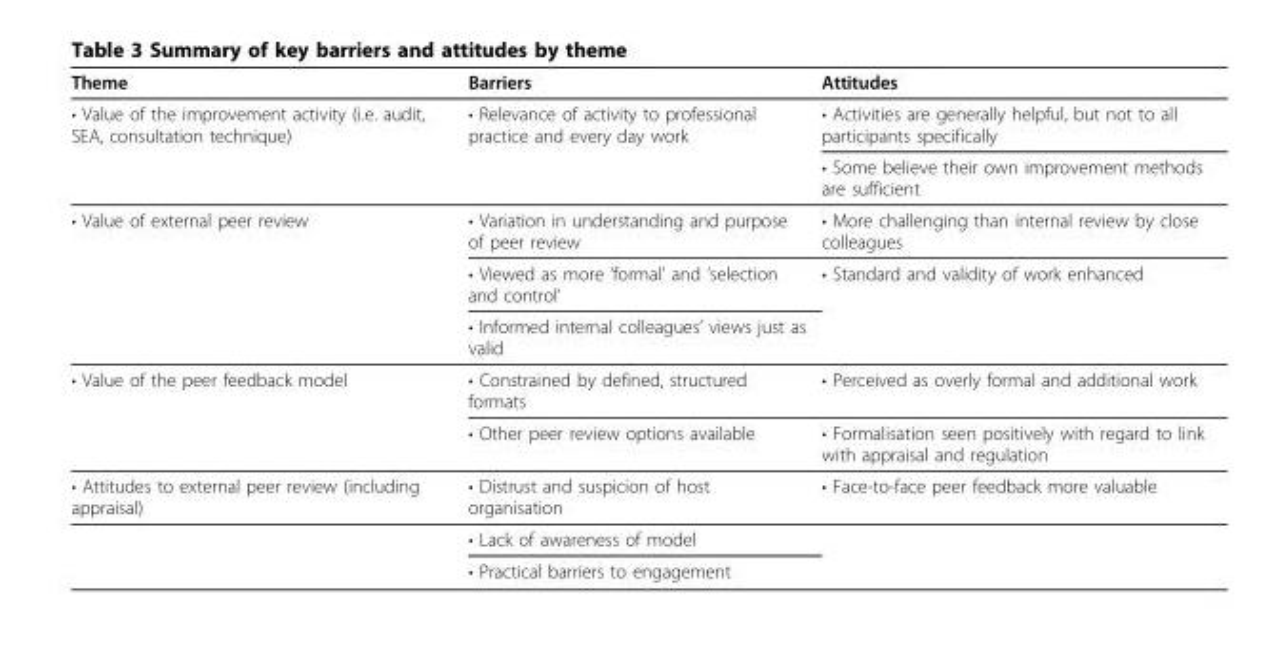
<table><thead><tr><td>Theme</td><td>Barriers</td><td>Attitudes</td></tr></thead><tbody><tr><td rowspan="2">• Value of the improvement activity (i.e. audit, SEA, consultation technique)</td><td>• Relevance of activity to professional practice and every day work</td><td>• Activities are generally helpful, but not to all participants specifically</td></tr><tr><td></td><td>• Some believe their own improvement methods are sufficient</td></tr><tr><td rowspan="3">• Value of external peer review</td><td>• Variation in understanding and purpose of peer review</td><td>• More challenging than internal review by close colleagues</td></tr><tr><td>• Viewed as more ‘formal’ and ‘selection and control’</td><td>• Standard and validity of work enhanced</td></tr><tr><td>• Informed internal colleagues’ views just as valid</td><td></td></tr><tr><td rowspan="2">• Value of the peer feedback model</td><td>• Constrained by defined, structured formats</td><td>• Perceived as overly formal and additional work</td></tr><tr><td>• Other peer review options available</td><td>• Formalisation seen positively with regard to link with appraisal and regulation</td></tr><tr><td rowspan="3">• Attitudes to external peer review (including appraisal)</td><td>• Distrust and suspicion of host organisation</td><td>• Face-to-face peer feedback more valuable</td></tr><tr><td>• Lack of awareness of model</td><td></td></tr><tr><td>• Practical barriers to engagement</td><td></td></tr></tbody></table>